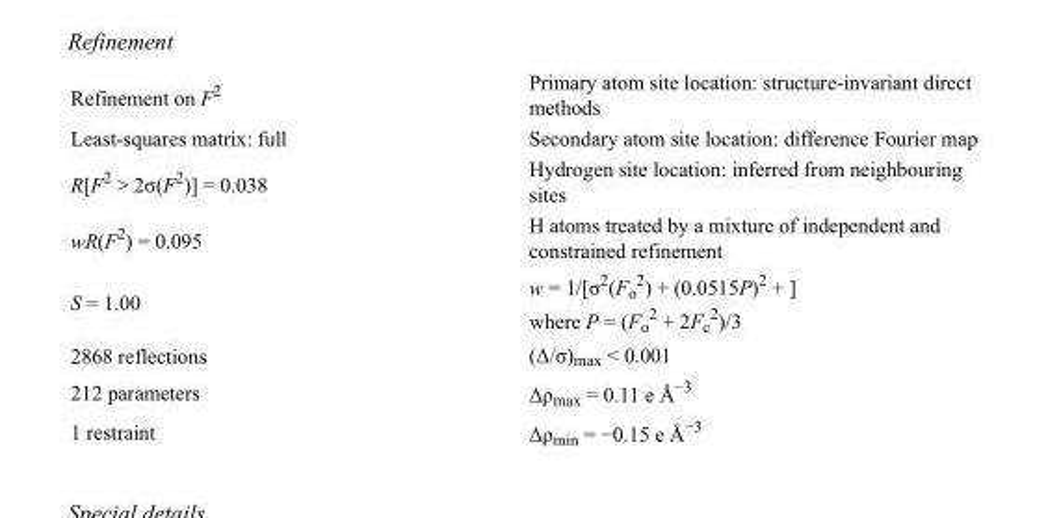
<table><tbody><tr><td>Refinement on F<sup>2</sup></td><td>Primary atom site location: structure-invariant direct methods</td></tr><tr><td>Least-squares matrix: full</td><td>Secondary atom site location: difference Fourier map</td></tr><tr><td>R[F<sup>2</sup> &gt; 2σ(F<sup>2</sup>)] = 0.038</td><td>Hydrogen site location: inferred from neighbouring sites</td></tr><tr><td>wR(F<sup>2</sup>) = 0.095</td><td>H atoms treated by a mixture of independent and constrained refinement</td></tr><tr><td>S = 1.00</td><td>w = 1/[σ<sup>2</sup>(F<sub>o</sub> <sup>2</sup>) + (0.0515P)<sup>2</sup> + ] where P = (F<sub>o</sub> <sup>2</sup> + 2F<sub>c</sub> <sup>2</sup>)/3</td></tr><tr><td>2868 reflections</td><td>(Δ/σ)<sub>max</sub> &lt; 0.001</td></tr><tr><td>212 parameters</td><td>Δρ<sub>max</sub> = 0.11 e Å<sup>−3</sup></td></tr><tr><td>1 restraint</td><td>Δρ<sub>min</sub> = −0.15 e Å<sup>−3</sup></td></tr></tbody></table>